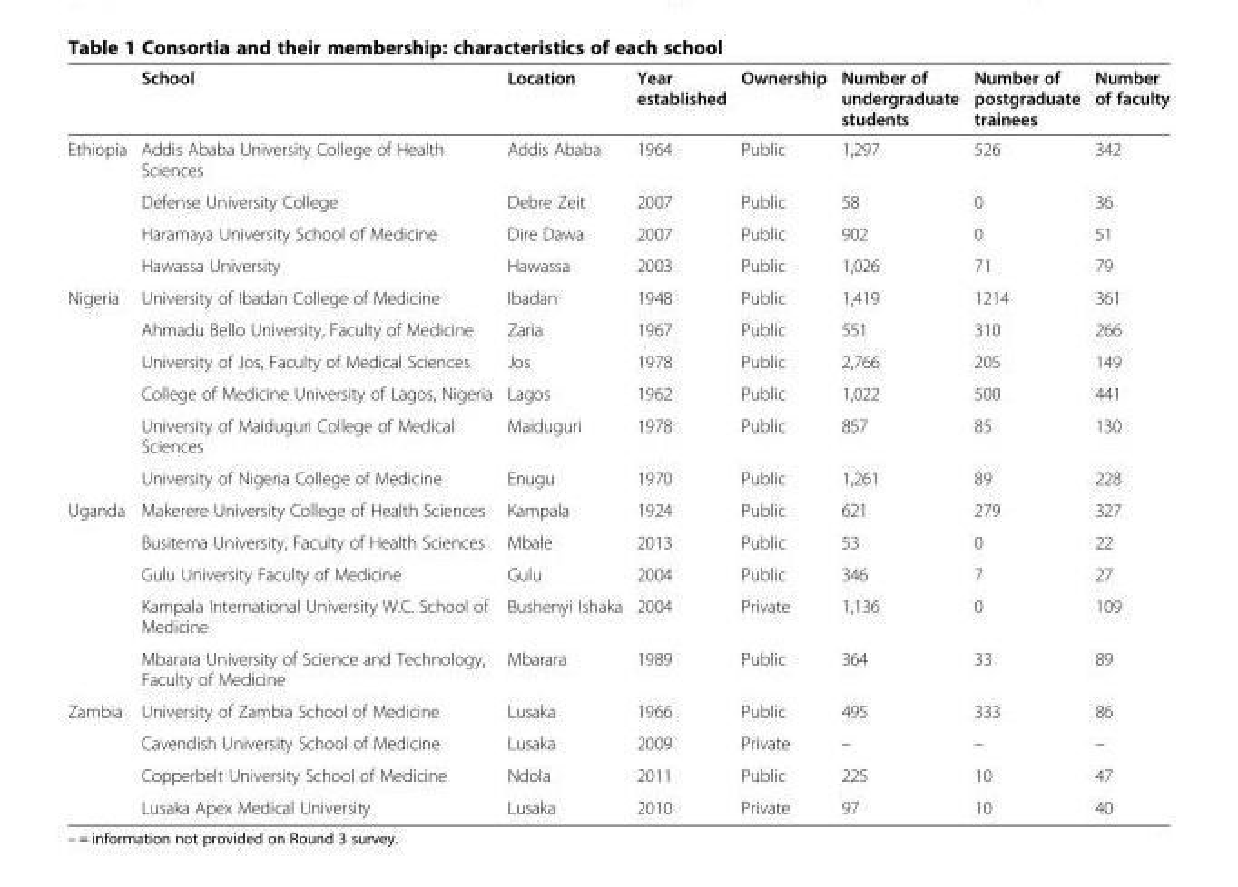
<table><thead><tr><td></td><td>School</td><td>Location</td><td>Year established</td><td>Ownership</td><td>Number of undergraduate students</td><td>Number of postgraduate trainees</td><td>Number of faculty</td></tr></thead><tbody><tr><td rowspan="4">Ethiopia</td><td>Addis Ababa University College of Health Sciences</td><td>Addis Ababa</td><td>1964</td><td>Public</td><td>1,297</td><td>526</td><td>342</td></tr><tr><td>Defense University College</td><td>Debre Zeit</td><td>2007</td><td>Public</td><td>58</td><td>0</td><td>36</td></tr><tr><td>Haramaya University School of Medicine</td><td>Dire Dawa</td><td>2007</td><td>Public</td><td>902</td><td>0</td><td>51</td></tr><tr><td>Hawassa University</td><td>Hawassa</td><td>2003</td><td>Public</td><td>1,026</td><td>71</td><td>79</td></tr><tr><td rowspan="6">Nigeria</td><td>University of Ibadan College of Medicine</td><td>Ibadan</td><td>1948</td><td>Public</td><td>1,419</td><td>1214</td><td>361</td></tr><tr><td>Ahmadu Bello University, Faculty of Medicine</td><td>Zaria</td><td>1967</td><td>Public</td><td>551</td><td>310</td><td>266</td></tr><tr><td>University of Jos, Faculty of Medical Sciences</td><td>Jos</td><td>1978</td><td>Public</td><td>2,766</td><td>205</td><td>149</td></tr><tr><td>College of Medicine University of Lagos, Nigeria</td><td>Lagos</td><td>1962</td><td>Public</td><td>1,022</td><td>500</td><td>441</td></tr><tr><td>University of Maiduguri College of Medical Sciences</td><td>Maiduguri</td><td>1978</td><td>Public</td><td>857</td><td>85</td><td>130</td></tr><tr><td>University of Nigeria College of Medicine</td><td>Enugu</td><td>1970</td><td>Public</td><td>1,261</td><td>89</td><td>228</td></tr><tr><td rowspan="5">Uganda</td><td>Makerere University College of Health Sciences</td><td>Kampala</td><td>1924</td><td>Public</td><td>621</td><td>279</td><td>327</td></tr><tr><td>Busitema University, Faculty of Health Sciences</td><td>Mbale</td><td>2013</td><td>Public</td><td>53</td><td>0</td><td>22</td></tr><tr><td>Gulu University Faculty of Medicine</td><td>Gulu</td><td>2004</td><td>Public</td><td>346</td><td>7</td><td>27</td></tr><tr><td>Kampala International University W.C. School of Medicine</td><td>Bushenyi Ishaka</td><td>2004</td><td>Private</td><td>1,136</td><td>0</td><td>109</td></tr><tr><td>Mbarara University of Science and Technology, Faculty of Medicine</td><td>Mbarara</td><td>1989</td><td>Public</td><td>364</td><td>33</td><td>89</td></tr><tr><td rowspan="4">Zambia</td><td>University of Zambia School of Medicine</td><td>Lusaka</td><td>1966</td><td>Public</td><td>495</td><td>333</td><td>86</td></tr><tr><td>Cavendish University School of Medicine</td><td>Lusaka</td><td>2009</td><td>Private</td><td>–</td><td>–</td><td>–</td></tr><tr><td>Copperbelt University School of Medicine</td><td>Ndola</td><td>2011</td><td>Public</td><td>225</td><td>10</td><td>47</td></tr><tr><td>Lusaka Apex Medical University</td><td>Lusaka</td><td>2010</td><td>Private</td><td>97</td><td>10</td><td>40</td></tr></tbody></table>